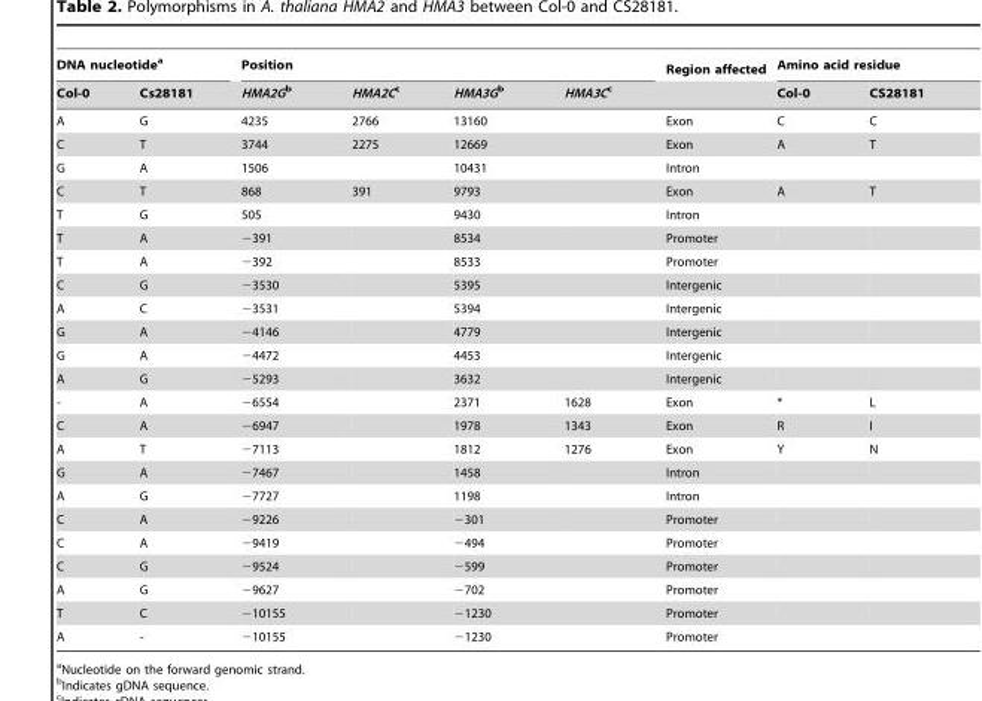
<table><thead><tr><td colspan="2">DNA nucleotide<sup>a</sup></td><td colspan="4">Position</td><td rowspan="2">Region affected</td><td colspan="2">Amino acid residue</td></tr><tr><td>Col-0</td><td>Cs28181</td><td>HMA2Gb</td><td>HMA2Cc</td><td>HMA3Gb</td><td>HMA3Cc</td><td>Col-0</td><td>CS28181</td></tr></thead><tbody><tr><td>A</td><td>G</td><td>4235</td><td>2766</td><td>13160</td><td></td><td>Exon</td><td>C</td><td>C</td></tr><tr><td>C</td><td>T</td><td>3744</td><td>2275</td><td>12669</td><td></td><td>Exon</td><td>A</td><td>T</td></tr><tr><td>G</td><td>A</td><td>1506</td><td></td><td>10431</td><td></td><td>Intron</td><td></td><td></td></tr><tr><td>C</td><td>T</td><td>868</td><td>391</td><td>9793</td><td></td><td>Exon</td><td>A</td><td>T</td></tr><tr><td>T</td><td>G</td><td>505</td><td></td><td>9430</td><td></td><td>Intron</td><td></td><td></td></tr><tr><td>T</td><td>A</td><td>−391</td><td></td><td>8534</td><td></td><td>Promoter</td><td></td><td></td></tr><tr><td>T</td><td>A</td><td>−392</td><td></td><td>8533</td><td></td><td>Promoter</td><td></td><td></td></tr><tr><td>C</td><td>G</td><td>−3530</td><td></td><td>5395</td><td></td><td>Intergenic</td><td></td><td></td></tr><tr><td>A</td><td>C</td><td>−3531</td><td></td><td>5394</td><td></td><td>Intergenic</td><td></td><td></td></tr><tr><td>G</td><td>A</td><td>−4146</td><td></td><td>4779</td><td></td><td>Intergenic</td><td></td><td></td></tr><tr><td>G</td><td>A</td><td>−4472</td><td></td><td>4453</td><td></td><td>Intergenic</td><td></td><td></td></tr><tr><td>A</td><td>G</td><td>−5293</td><td></td><td>3632</td><td></td><td>Intergenic</td><td></td><td></td></tr><tr><td>-</td><td>A</td><td>−6554</td><td></td><td>2371</td><td>1628</td><td>Exon</td><td>*</td><td>L</td></tr><tr><td>C</td><td>A</td><td>−6947</td><td></td><td>1978</td><td>1343</td><td>Exon</td><td>R</td><td>I</td></tr><tr><td>A</td><td>T</td><td>−7113</td><td></td><td>1812</td><td>1276</td><td>Exon</td><td>Y</td><td>N</td></tr><tr><td>G</td><td>A</td><td>−7467</td><td></td><td>1458</td><td></td><td>Intron</td><td></td><td></td></tr><tr><td>A</td><td>G</td><td>−7727</td><td></td><td>1198</td><td></td><td>Intron</td><td></td><td></td></tr><tr><td>C</td><td>A</td><td>−9226</td><td></td><td>−301</td><td></td><td>Promoter</td><td></td><td></td></tr><tr><td>C</td><td>A</td><td>−9419</td><td></td><td>−494</td><td></td><td>Promoter</td><td></td><td></td></tr><tr><td>C</td><td>G</td><td>−9524</td><td></td><td>−599</td><td></td><td>Promoter</td><td></td><td></td></tr><tr><td>A</td><td>G</td><td>−9627</td><td></td><td>−702</td><td></td><td>Promoter</td><td></td><td></td></tr><tr><td>T</td><td>C</td><td>−10155</td><td></td><td>−1230</td><td></td><td>Promoter</td><td></td><td></td></tr><tr><td>A</td><td>-</td><td>−10155</td><td></td><td>−1230</td><td></td><td>Promoter</td><td></td><td></td></tr></tbody></table>